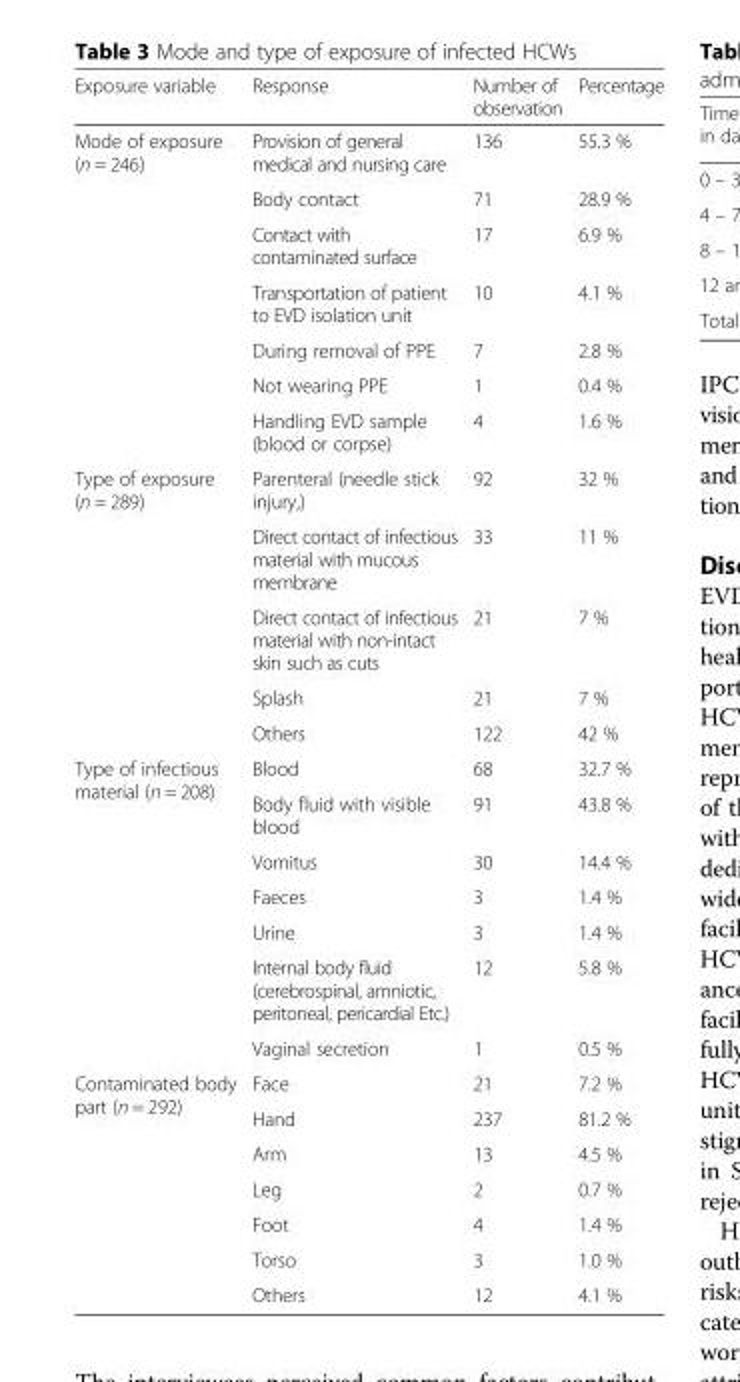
<table><thead><tr><td>Exposure variable</td><td>Response</td><td>Number of observation</td><td>Percentage</td></tr></thead><tbody><tr><td rowspan="7">Mode of exposure (n = 246)</td><td>Provision of general medical and nursing care</td><td>136</td><td>55.3 %</td></tr><tr><td>Body contact</td><td>71</td><td>28.9 %</td></tr><tr><td>Contact with contaminated surface</td><td>17</td><td>6.9 %</td></tr><tr><td>Transportation of patient to EVD isolation unit</td><td>10</td><td>4.1 %</td></tr><tr><td>During removal of PPE</td><td>7</td><td>2.8 %</td></tr><tr><td>Not wearing PPE</td><td>1</td><td>0.4 %</td></tr><tr><td>Handling EVD sample (blood or corpse)</td><td>4</td><td>1.6 %</td></tr><tr><td rowspan="5">Type of exposure (n = 289)</td><td>Parenteral (needle stick injury,)</td><td>92</td><td>32 %</td></tr><tr><td>Direct contact of infectious material with mucous membrane</td><td>33</td><td>11 %</td></tr><tr><td>Direct contact of infectious material with non-intact skin such as cuts</td><td>21</td><td>7 %</td></tr><tr><td>Splash</td><td>21</td><td>7 %</td></tr><tr><td>Others</td><td>122</td><td>42 %</td></tr><tr><td rowspan="7">Type of infectious material (n = 208)</td><td>Blood</td><td>68</td><td>32.7 %</td></tr><tr><td>Body fluid with visible blood</td><td>91</td><td>43.8 %</td></tr><tr><td>Vomitus</td><td>30</td><td>14.4 %</td></tr><tr><td>Faeces</td><td>3</td><td>1.4 %</td></tr><tr><td>Urine</td><td>3</td><td>1.4 %</td></tr><tr><td>Internal body fluid (cerebrospinal, amniotic, peritoneal, pericardial Etc.)</td><td>12</td><td>5.8 %</td></tr><tr><td>Vaginal secretion</td><td>1</td><td>0.5 %</td></tr><tr><td rowspan="7">Contaminated body part (n = 292)</td><td>Face</td><td>21</td><td>7.2 %</td></tr><tr><td>Hand</td><td>237</td><td>81.2 %</td></tr><tr><td>Arm</td><td>13</td><td>4.5 %</td></tr><tr><td>Leg</td><td>2</td><td>0.7 %</td></tr><tr><td>Foot</td><td>4</td><td>1.4 %</td></tr><tr><td>Torso</td><td>3</td><td>1.0 %</td></tr><tr><td>Others</td><td>12</td><td>4.1 %</td></tr></tbody></table>